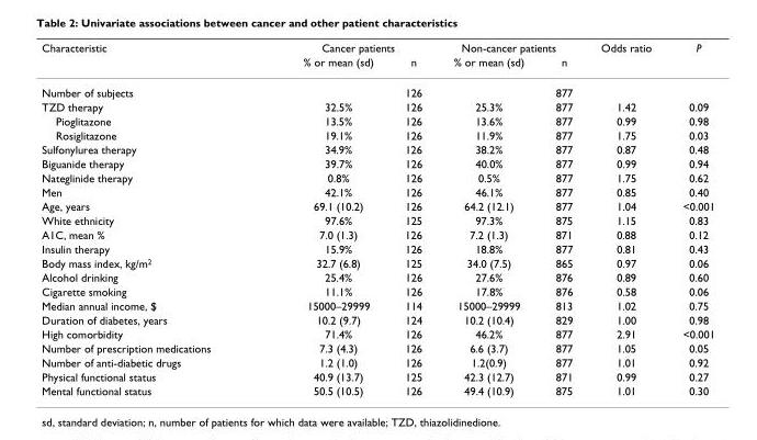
<table><thead><tr><td rowspan="2">Characteristic</td><td colspan="2">Cancer patients</td><td colspan="2">Non-cancer patients</td><td rowspan="2">Odds ratio</td><td rowspan="2">P</td></tr><tr><td>% or mean (sd)</td><td>n</td><td>% or mean (sd)</td><td>n</td></tr></thead><tbody><tr><td>Number of subjects</td><td></td><td>126</td><td></td><td>877</td><td></td><td></td></tr><tr><td>TZD therapy</td><td>32.5%</td><td>126</td><td>25.3%</td><td>877</td><td>1.42</td><td>0.09</td></tr><tr><td>Pioglitazone</td><td>13.5%</td><td>126</td><td>13.6%</td><td>877</td><td>0.99</td><td>0.98</td></tr><tr><td>Rosiglitazone</td><td>19.1%</td><td>126</td><td>11.9%</td><td>877</td><td>1.75</td><td>0.03</td></tr><tr><td>Sulfonylurea therapy</td><td>34.9%</td><td>126</td><td>38.2%</td><td>877</td><td>0.87</td><td>0.48</td></tr><tr><td>Biguanide therapy</td><td>39.7%</td><td>126</td><td>40.0%</td><td>877</td><td>0.99</td><td>0.94</td></tr><tr><td>Nateglinide therapy</td><td>0.8%</td><td>126</td><td>0.5%</td><td>877</td><td>1.75</td><td>0.62</td></tr><tr><td>Men</td><td>42.1%</td><td>126</td><td>46.1%</td><td>877</td><td>0.85</td><td>0.40</td></tr><tr><td>Age, years</td><td>69.1 (10.2)</td><td>126</td><td>64.2 (12.1)</td><td>877</td><td>1.04</td><td>&lt;0.001</td></tr><tr><td>White ethnicity</td><td>97.6%</td><td>125</td><td>97.3%</td><td>875</td><td>1.15</td><td>0.83</td></tr><tr><td>A1C, mean %</td><td>7.0 (1.3)</td><td>126</td><td>7.2 (1.3)</td><td>871</td><td>0.88</td><td>0.12</td></tr><tr><td>Insulin therapy</td><td>15.9%</td><td>126</td><td>18.8%</td><td>877</td><td>0.81</td><td>0.43</td></tr><tr><td>Body mass index, kg/m<sup>2</sup></td><td>32.7 (6.8)</td><td>125</td><td>34.0 (7.5)</td><td>865</td><td>0.97</td><td>0.06</td></tr><tr><td>Alcohol drinking</td><td>25.4%</td><td>126</td><td>27.6%</td><td>876</td><td>0.89</td><td>0.60</td></tr><tr><td>Cigarette smoking</td><td>11.1%</td><td>126</td><td>17.8%</td><td>876</td><td>0.58</td><td>0.06</td></tr><tr><td>Median annual income, $</td><td>15000–29999</td><td>114</td><td>15000–29999</td><td>813</td><td>1.02</td><td>0.75</td></tr><tr><td>Duration of diabetes, years</td><td>10.2 (9.7)</td><td>124</td><td>10.2 (10.4)</td><td>829</td><td>1.00</td><td>0.98</td></tr><tr><td>High comorbidity</td><td>71.4%</td><td>126</td><td>46.2%</td><td>877</td><td>2.91</td><td>&lt;0.001</td></tr><tr><td>Number of prescription medications</td><td>7.3 (4.3)</td><td>126</td><td>6.6 (3.7)</td><td>877</td><td>1.05</td><td>0.05</td></tr><tr><td>Number of anti-diabetic drugs</td><td>1.2 (1.0)</td><td>126</td><td>1.2(0.9)</td><td>877</td><td>1.01</td><td>0.92</td></tr><tr><td>Physical functional status</td><td>40.9 (13.7)</td><td>125</td><td>42.3 (12.7)</td><td>871</td><td>0.99</td><td>0.27</td></tr><tr><td>Mental functional status</td><td>50.5 (10.5)</td><td>126</td><td>49.4 (10.9)</td><td>875</td><td>1.01</td><td>0.30</td></tr></tbody></table>